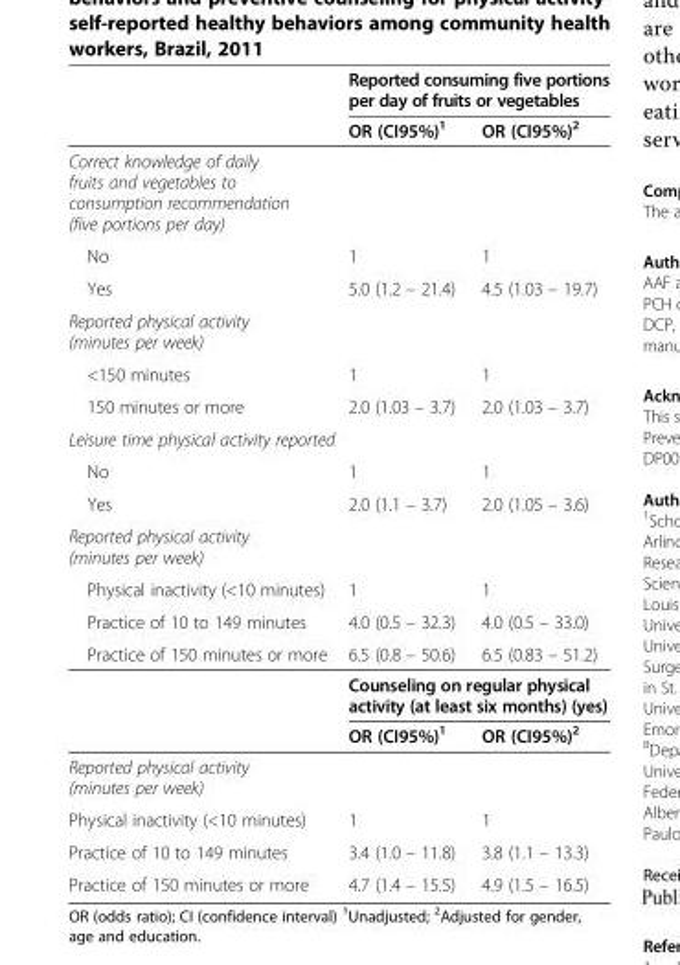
<table><thead><tr><td rowspan="2"></td><td colspan="2">Reported consuming five portions per day of fruits or vegetables</td></tr><tr><td>OR (CI95%)<sup>1</sup></td><td>OR (CI95%)<sup>2</sup></td></tr></thead><tbody><tr><td colspan="3">Correct knowledge of daily fruits and vegetables to consumption recommendation (five portions per day)</td></tr><tr><td>No</td><td>1</td><td>1</td></tr><tr><td>Yes</td><td>5.0 (1.2 – 21.4)</td><td>4.5 (1.03 – 19.7)</td></tr><tr><td colspan="3">Reported physical activity (minutes per week)</td></tr><tr><td>&lt;150 minutes</td><td>1</td><td>1</td></tr><tr><td>150 minutes or more</td><td>2.0 (1.03 – 3.7)</td><td>2.0 (1.03 – 3.7)</td></tr><tr><td colspan="3">Leisure time physical activity reported</td></tr><tr><td>No</td><td>1</td><td>1</td></tr><tr><td>Yes</td><td>2.0 (1.1 – 3.7)</td><td>2.0 (1.05 – 3.6)</td></tr><tr><td colspan="3">Reported physical activity (minutes per week)</td></tr><tr><td>Physical inactivity (&lt;10 minutes)</td><td>1</td><td>1</td></tr><tr><td>Practice of 10 to 149 minutes</td><td>4.0 (0.5 – 32.3)</td><td>4.0 (0.5 – 33.0)</td></tr><tr><td rowspan="3">Practice of 150 minutes or more</td><td>6.5 (0.8 – 50.6)</td><td>6.5 (0.83 – 51.2)</td></tr><tr><td colspan="2">Counseling on regular physical activity (at least six months) (yes)</td></tr><tr><td>OR (CI95%)<sup>1</sup></td><td>OR (CI95%)<sup>2</sup></td></tr><tr><td colspan="3">Reported physical activity (minutes per week)</td></tr><tr><td>Physical inactivity (&lt;10 minutes)</td><td>1</td><td>1</td></tr><tr><td>Practice of 10 to 149 minutes</td><td>3.4 (1.0 – 11.8)</td><td>3.8 (1.1 – 13.3)</td></tr><tr><td>Practice of 150 minutes or more</td><td>4.7 (1.4 – 15.5)</td><td>4.9 (1.5 – 16.5)</td></tr></tbody></table>